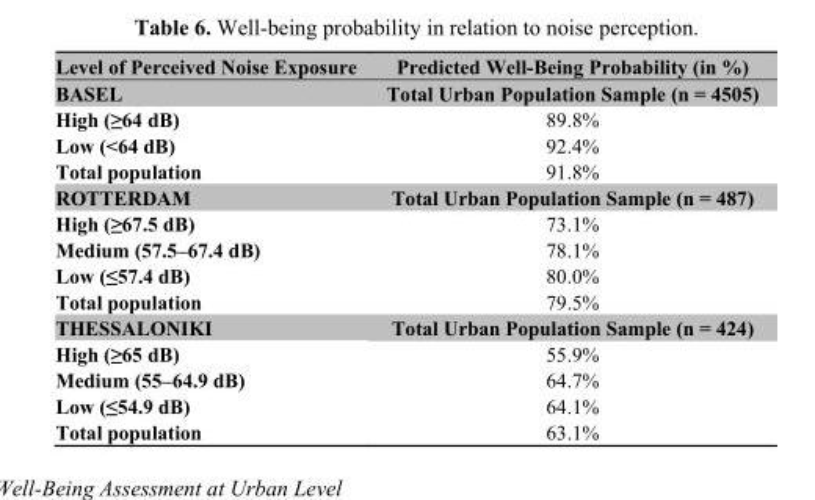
<table><thead><tr><td>Level of Perceived Noise Exposure</td><td>Predicted Well-Being Probability (in %)</td></tr></thead><tbody><tr><td>BASEL</td><td>Total Urban Population Sample (n = 4505)</td></tr><tr><td>High (≥64 dB)</td><td>89.8%</td></tr><tr><td>Low (&lt;64 dB)</td><td>92.4%</td></tr><tr><td>Total population</td><td>91.8%</td></tr><tr><td>ROTTERDAM</td><td>Total Urban Population Sample (n = 487)</td></tr><tr><td>High (≥67.5 dB)</td><td>73.1%</td></tr><tr><td>Medium (57.5‒67.4 dB)</td><td>78.1%</td></tr><tr><td>Low (≤57.4 dB)</td><td>80.0%</td></tr><tr><td>Total population</td><td>79.5%</td></tr><tr><td>THESSALONIKI</td><td>Total Urban Population Sample (n = 424)</td></tr><tr><td>High (≥65 dB)</td><td>55.9%</td></tr><tr><td>Medium (55‒64.9 dB)</td><td>64.7%</td></tr><tr><td>Low (≤54.9 dB)</td><td>64.1%</td></tr><tr><td>Total population</td><td>63.1%</td></tr></tbody></table>